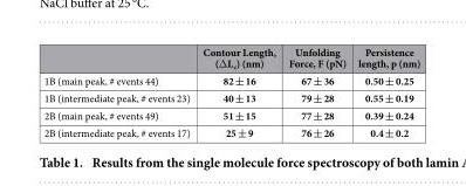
<table><thead><tr><td></td><td>Contour Length, (Δ L<sub>c</sub>) (nm)</td><td>Unfolding Force, F (pN)</td><td>Persistence length, p (nm)</td></tr></thead><tbody><tr><td>1B (main peak, # events 44)</td><td>82 ± 16</td><td>67 ± 36</td><td>0.50 ± 0.25</td></tr><tr><td>1B (intermediate peak, # events 23)</td><td>40 ± 13</td><td>79 ± 28</td><td>0.55 ± 0.19</td></tr><tr><td>2B (main peak, # events 49)</td><td>51 ± 15</td><td>77 ± 28</td><td>0.39 ± 0.24</td></tr><tr><td>2B (intermediate peak, # events 17)</td><td>25 ± 9</td><td>76 ± 26</td><td>0.4 ± 0.2</td></tr></tbody></table>